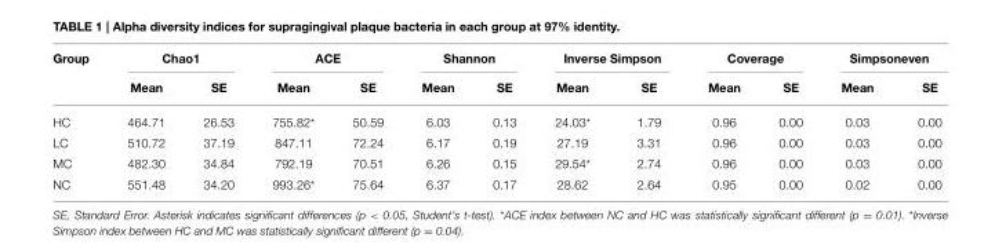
<table><thead><tr><td rowspan="2">Group</td><td colspan="2">Chao1</td><td colspan="2">ACE</td><td colspan="2">Shannon</td><td colspan="2">Inverse Simpson</td><td colspan="2">Coverage</td><td colspan="2">Simpsoneven</td></tr><tr><td>Mean</td><td>SE</td><td>Mean</td><td>SE</td><td>Mean</td><td>SE</td><td>Mean</td><td>SE</td><td>Mean</td><td>SE</td><td>Mean</td><td>SE</td></tr></thead><tbody><tr><td>HC</td><td>464.71</td><td>26.53</td><td>755.82*</td><td>50.59</td><td>6.03</td><td>0.13</td><td>24.03*</td><td>1.79</td><td>0.96</td><td>0.00</td><td>0.03</td><td>0.00</td></tr><tr><td>LC</td><td>510.72</td><td>37.19</td><td>847.11</td><td>72.24</td><td>6.17</td><td>0.19</td><td>27.19</td><td>3.31</td><td>0.96</td><td>0.00</td><td>0.03</td><td>0.00</td></tr><tr><td>MC</td><td>482.30</td><td>34.84</td><td>792.19</td><td>70.51</td><td>6.26</td><td>0.15</td><td>29.54*</td><td>2.74</td><td>0.96</td><td>0.00</td><td>0.03</td><td>0.00</td></tr><tr><td>NC</td><td>551.48</td><td>34.20</td><td>993.26*</td><td>75.64</td><td>6.37</td><td>0.17</td><td>28.62</td><td>2.64</td><td>0.95</td><td>0.00</td><td>0.02</td><td>0.00</td></tr></tbody></table>